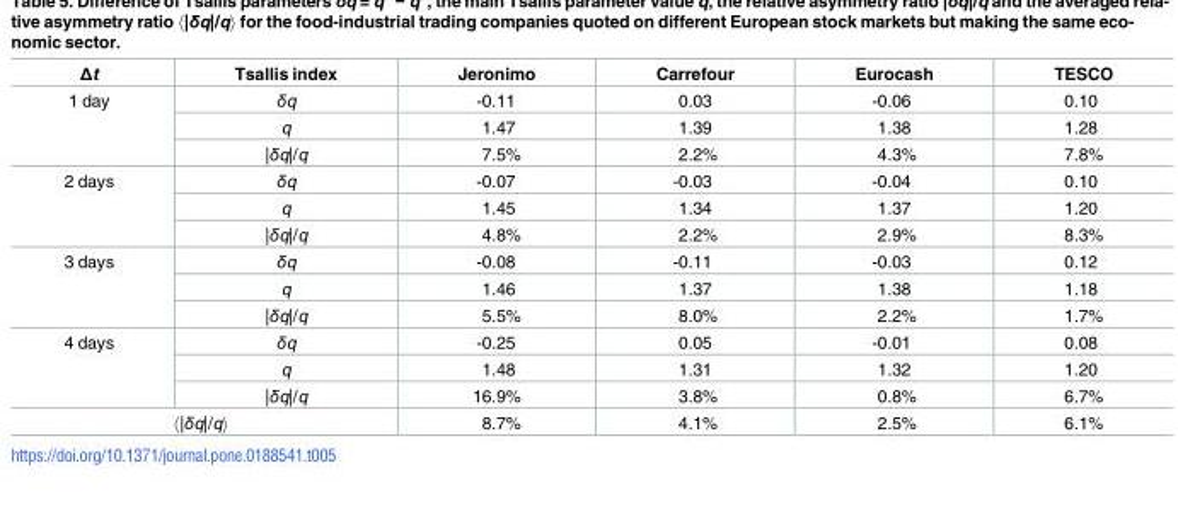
<table><thead><tr><td>Δt</td><td>Tsallis index</td><td>Jeronimo</td><td>Carrefour</td><td>Eurocash</td><td>TESCO</td></tr></thead><tbody><tr><td rowspan="3">1 day</td><td>δq</td><td>-0.11</td><td>0.03</td><td>-0.06</td><td>0.10</td></tr><tr><td>q</td><td>1.47</td><td>1.39</td><td>1.38</td><td>1.28</td></tr><tr><td>|δq|/q</td><td>7.5%</td><td>2.2%</td><td>4.3%</td><td>7.8%</td></tr><tr><td rowspan="3">2 days</td><td>δq</td><td>-0.07</td><td>-0.03</td><td>-0.04</td><td>0.10</td></tr><tr><td>q</td><td>1.45</td><td>1.34</td><td>1.37</td><td>1.20</td></tr><tr><td>|δq|/q</td><td>4.8%</td><td>2.2%</td><td>2.9%</td><td>8.3%</td></tr><tr><td rowspan="3">3 days</td><td>δq</td><td>-0.08</td><td>-0.11</td><td>-0.03</td><td>0.12</td></tr><tr><td>q</td><td>1.46</td><td>1.37</td><td>1.38</td><td>1.18</td></tr><tr><td>|δq|/q</td><td>5.5%</td><td>8.0%</td><td>2.2%</td><td>1.7%</td></tr><tr><td rowspan="3">4 days</td><td>δq</td><td>-0.25</td><td>0.05</td><td>-0.01</td><td>0.08</td></tr><tr><td>q</td><td>1.48</td><td>1.31</td><td>1.32</td><td>1.20</td></tr><tr><td>|δq|/q</td><td>16.9%</td><td>3.8%</td><td>0.8%</td><td>6.7%</td></tr><tr><td colspan="2">〈|δq|/q〉</td><td>8.7%</td><td>4.1%</td><td>2.5%</td><td>6.1%</td></tr></tbody></table>